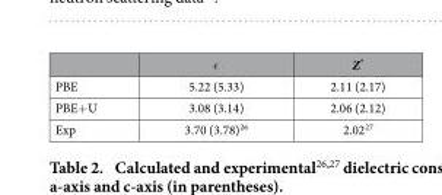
<table><thead><tr><td></td><td></td><td>Z*</td></tr></thead><tbody><tr><td>PBE</td><td>5.22 (5.33)</td><td>2.11 (2.17)</td></tr><tr><td>PBE+ U</td><td>3.08 (3.14)</td><td>2.06 (2.12)</td></tr><tr><td>Exp</td><td>3.70 (3.78)<sup>26</sup></td><td>2.02<sup>27</sup></td></tr></tbody></table>